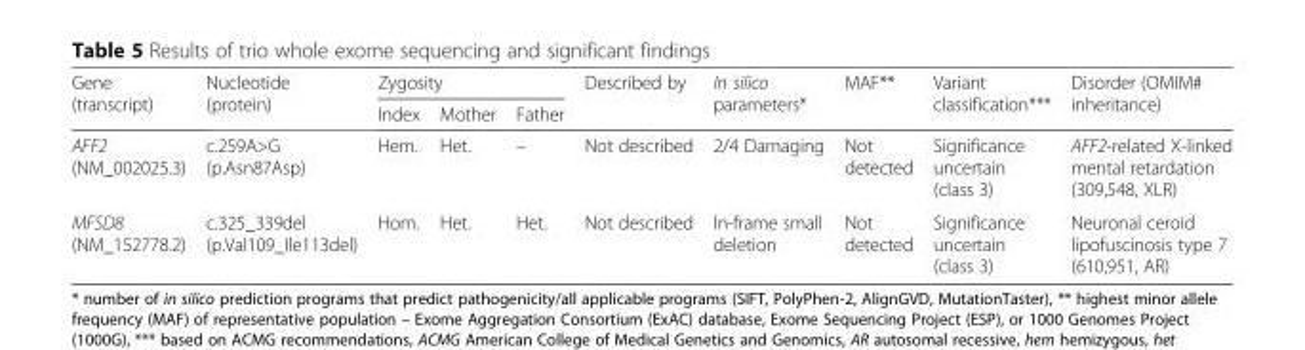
<table><thead><tr><td rowspan="2">Gene (transcript)</td><td rowspan="2">Nucleotide (protein)</td><td colspan="3">Zygosity</td><td rowspan="2">Described by</td><td rowspan="2">In silico parameters*</td><td rowspan="2">MAF**</td><td rowspan="2">Variant classification***</td><td rowspan="2">Disorder (OMIM# inheritance)</td></tr><tr><td>Index</td><td>Mother</td><td>Father</td></tr></thead><tbody><tr><td>AFF2 (NM_002025.3)</td><td>c.259A&gt;G (p.Asn87Asp)</td><td>Hem.</td><td>Het.</td><td>–</td><td>Not described</td><td>2/4 Damaging</td><td>Not detected</td><td>Significance uncertain (class 3)</td><td>AFF2-related X-linked mental retardation (309,548, XLR)</td></tr><tr><td>MFSD8 (NM_152778.2)</td><td>c.325_339del (p.Val109_Ile113del)</td><td>Hom.</td><td>Het.</td><td>Het.</td><td>Not described</td><td>In-frame small deletion</td><td>Not detected</td><td>Significance uncertain (class 3)</td><td>Neuronal ceroid lipofuscinosis type 7 (610,951, AR)</td></tr></tbody></table>